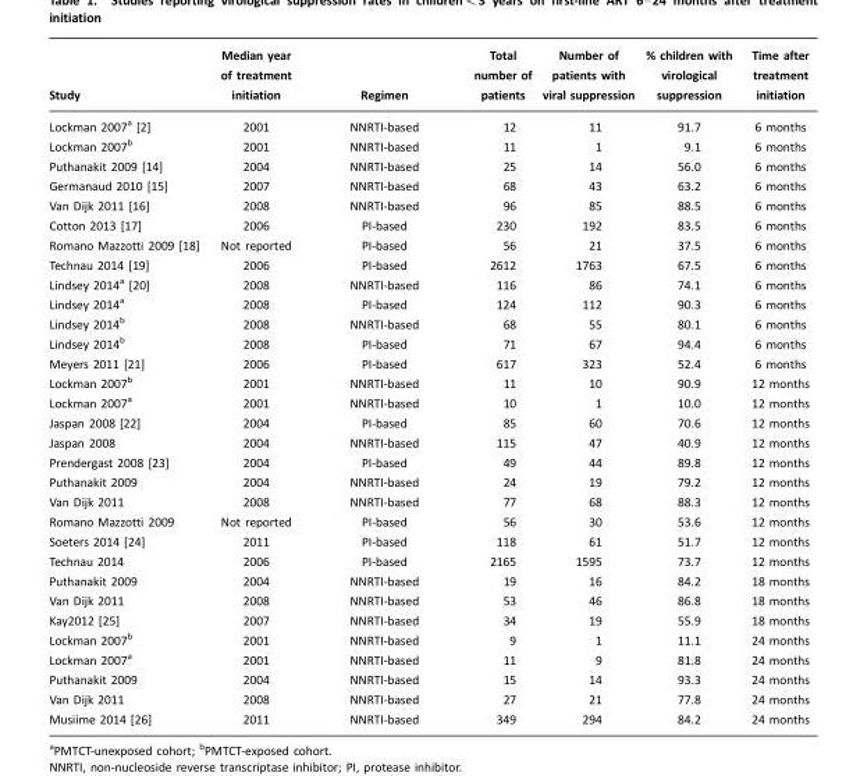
<table><thead><tr><td>Study</td><td>Median year of treatment initiation</td><td>Regimen</td><td>Total number of patients</td><td>Number of patients with viral suppression</td><td>% children with virological suppression</td><td>Time after treatment initiation</td></tr></thead><tbody><tr><td>Lockman 2007<sup>a</sup> [2]</td><td>2001</td><td>NNRTI-based</td><td>12</td><td>11</td><td>91.7</td><td>6 months</td></tr><tr><td>Lockman 2007<sup>b</sup></td><td>2001</td><td>NNRTI-based</td><td>11</td><td>1</td><td>9.1</td><td>6 months</td></tr><tr><td>Puthanakit 2009 [14]</td><td>2004</td><td>NNRTI-based</td><td>25</td><td>14</td><td>56.0</td><td>6 months</td></tr><tr><td>Germanaud 2010 [15]</td><td>2007</td><td>NNRTI-based</td><td>68</td><td>43</td><td>63.2</td><td>6 months</td></tr><tr><td>Van Dijk 2011 [16]</td><td>2008</td><td>NNRTI-based</td><td>96</td><td>85</td><td>88.5</td><td>6 months</td></tr><tr><td>Cotton 2013 [17]</td><td>2006</td><td>PI-based</td><td>230</td><td>192</td><td>83.5</td><td>6 months</td></tr><tr><td>Romano Mazzotti 2009 [18]</td><td>Not reported</td><td>PI-based</td><td>56</td><td>21</td><td>37.5</td><td>6 months</td></tr><tr><td>Technau 2014 [19]</td><td>2006</td><td>PI-based</td><td>2612</td><td>1763</td><td>67.5</td><td>6 months</td></tr><tr><td>Lindsey 2014<sup>a</sup> [20]</td><td>2008</td><td>NNRTI-based</td><td>116</td><td>86</td><td>74.1</td><td>6 months</td></tr><tr><td>Lindsey 2014<sup>a</sup></td><td>2008</td><td>PI-based</td><td>124</td><td>112</td><td>90.3</td><td>6 months</td></tr><tr><td>Lindsey 2014<sup>b</sup></td><td>2008</td><td>NNRTI-based</td><td>68</td><td>55</td><td>80.1</td><td>6 months</td></tr><tr><td>Lindsey 2014<sup>b</sup></td><td>2008</td><td>PI-based</td><td>71</td><td>67</td><td>94.4</td><td>6 months</td></tr><tr><td>Meyers 2011 [21]</td><td>2006</td><td>PI-based</td><td>617</td><td>323</td><td>52.4</td><td>6 months</td></tr><tr><td>Lockman 2007<sup>b</sup></td><td>2001</td><td>NNRTI-based</td><td>11</td><td>10</td><td>90.9</td><td>12 months</td></tr><tr><td>Lockman 2007<sup>a</sup></td><td>2001</td><td>NNRTI-based</td><td>10</td><td>1</td><td>10.0</td><td>12 months</td></tr><tr><td>Jaspan 2008 [22]</td><td>2004</td><td>PI-based</td><td>85</td><td>60</td><td>70.6</td><td>12 months</td></tr><tr><td>Jaspan 2008</td><td>2004</td><td>NNRTI-based</td><td>115</td><td>47</td><td>40.9</td><td>12 months</td></tr><tr><td>Prendergast 2008 [23]</td><td>2004</td><td>PI-based</td><td>49</td><td>44</td><td>89.8</td><td>12 months</td></tr><tr><td>Puthanakit 2009</td><td>2004</td><td>NNRTI-based</td><td>24</td><td>19</td><td>79.2</td><td>12 months</td></tr><tr><td>Van Dijk 2011</td><td>2008</td><td>NNRTI-based</td><td>77</td><td>68</td><td>88.3</td><td>12 months</td></tr><tr><td>Romano Mazzotti 2009</td><td>Not reported</td><td>PI-based</td><td>56</td><td>30</td><td>53.6</td><td>12 months</td></tr><tr><td>Soeters 2014 [24]</td><td>2011</td><td>PI-based</td><td>118</td><td>61</td><td>51.7</td><td>12 months</td></tr><tr><td>Technau 2014</td><td>2006</td><td>PI-based</td><td>2165</td><td>1595</td><td>73.7</td><td>12 months</td></tr><tr><td>Puthanakit 2009</td><td>2004</td><td>NNRTI-based</td><td>19</td><td>16</td><td>84.2</td><td>18 months</td></tr><tr><td>Van Dijk 2011</td><td>2008</td><td>NNRTI-based</td><td>53</td><td>46</td><td>86.8</td><td>18 months</td></tr><tr><td>Kay2012 [25]</td><td>2007</td><td>NNRTI-based</td><td>34</td><td>19</td><td>55.9</td><td>18 months</td></tr><tr><td>Lockman 2007<sup>b</sup></td><td>2001</td><td>NNRTI-based</td><td>9</td><td>1</td><td>11.1</td><td>24 months</td></tr><tr><td>Lockman 2007<sup>a</sup></td><td>2001</td><td>NNRTI-based</td><td>11</td><td>9</td><td>81.8</td><td>24 months</td></tr><tr><td>Puthanakit 2009</td><td>2004</td><td>NNRTI-based</td><td>15</td><td>14</td><td>93.3</td><td>24 months</td></tr><tr><td>Van Dijk 2011</td><td>2008</td><td>NNRTI-based</td><td>27</td><td>21</td><td>77.8</td><td>24 months</td></tr><tr><td>Musiime 2014 [26]</td><td>2011</td><td>NNRTI-based</td><td>349</td><td>294</td><td>84.2</td><td>24 months</td></tr></tbody></table>